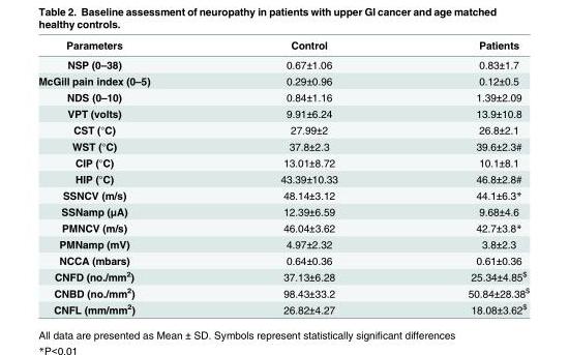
<table><thead><tr><td>Parameters</td><td>Control</td><td>Patients</td></tr></thead><tbody><tr><td>NSP (0–38)</td><td>0.67±1.06</td><td>0.83±1.7</td></tr><tr><td>McGill pain index (0–5)</td><td>0.29±0.96</td><td>0.12±0.5</td></tr><tr><td>NDS (0–10)</td><td>0.84±1.16</td><td>1.39±2.09</td></tr><tr><td>VPT (volts)</td><td>9.91±6.24</td><td>13.9±10.8</td></tr><tr><td>CST (°C)</td><td>27.99±2</td><td>26.8±2.1</td></tr><tr><td>WST (°C)</td><td>37.8±2.3</td><td>39.6±2.3#</td></tr><tr><td>CIP (°C)</td><td>13.01±8.72</td><td>10.1±8.1</td></tr><tr><td>HIP (°C)</td><td>43.39±10.33</td><td>46.8±2.8#</td></tr><tr><td>SSNCV (m/s)</td><td>48.14±3.12</td><td>44.1±6.3*</td></tr><tr><td>SSNamp (μA)</td><td>12.39±6.59</td><td>9.68±4.6</td></tr><tr><td>PMNCV (m/s)</td><td>46.04±3.62</td><td>42.7±3.8*</td></tr><tr><td>PMNamp (mV)</td><td>4.97±2.32</td><td>3.8±2.3</td></tr><tr><td>NCCA (mbars)</td><td>0.64±0.36</td><td>0.61±0.36</td></tr><tr><td>CNFD (no./mm<sup>2</sup>)</td><td>37.13±6.28</td><td>25.34±4.85<sup>$</sup></td></tr><tr><td>CNBD (no./mm<sup>2</sup>)</td><td>98.43±33.2</td><td>50.84±28.38<sup>$</sup></td></tr><tr><td>CNFL (mm/mm<sup>2</sup>)</td><td>26.82±4.27</td><td>18.08±3.62<sup>$</sup></td></tr></tbody></table>